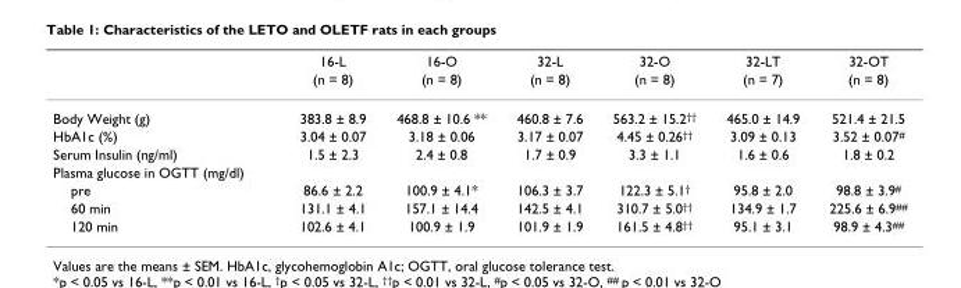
<table><thead><tr><td rowspan="2"></td><td rowspan="2">16-L (n = 8)</td><td rowspan="2">16-O (n = 8)</td><td rowspan="2">32-L (n = 8)</td><td rowspan="2">32-O (n = 8)</td><td rowspan="2">32-LT (n = 7)</td><td rowspan="2">32-OT (n = 8)</td></tr><tr></tr></thead><tbody><tr><td>Body Weight (g)</td><td>383.8 ± 8.9</td><td>468.8 ± 10.6 **</td><td>460.8 ± 7.6</td><td>563.2 ± 15.2<sup>††</sup></td><td>465.0 ± 14.9</td><td>521.4 ± 21.5</td></tr><tr><td>HbA1c (%)</td><td>3.04 ± 0.07</td><td>3.18 ± 0.06</td><td>3.17 ± 0.07</td><td>4.45 ± 0.26<sup>††</sup></td><td>3.09 ± 0.13</td><td>3.52 ± 0.07<sup>#</sup></td></tr><tr><td>Serum Insulin (ng/ml)</td><td>1.5 ± 2.3</td><td>2.4 ± 0.8</td><td>1.7 ± 0.9</td><td>3.3 ± 1.1</td><td>1.6 ± 0.6</td><td>1.8 ± 0.2</td></tr><tr><td colspan="7">Plasma glucose in OGTT (mg/dl)</td></tr><tr><td>pre</td><td>86.6 ± 2.2</td><td>100.9 ± 4.1*</td><td>106.3 ± 3.7</td><td>122.3 ± 5.1<sup>†</sup></td><td>95.8 ± 2.0</td><td>98.8 ± 3.9<sup>#</sup></td></tr><tr><td>60 min</td><td>131.1 ± 4.1</td><td>157.1 ± 14.4</td><td>142.5 ± 4.1</td><td>310.7 ± 5.0<sup>††</sup></td><td>134.9 ± 1.7</td><td>225.6 ± 6.9<sup>##</sup></td></tr><tr><td>120 min</td><td>102.6 ± 4.1</td><td>100.9 ± 1.9</td><td>101.9 ± 1.9</td><td>161.5 ± 4.8<sup>††</sup></td><td>95.1 ± 3.1</td><td>98.9 ± 4.3<sup>##</sup></td></tr></tbody></table>